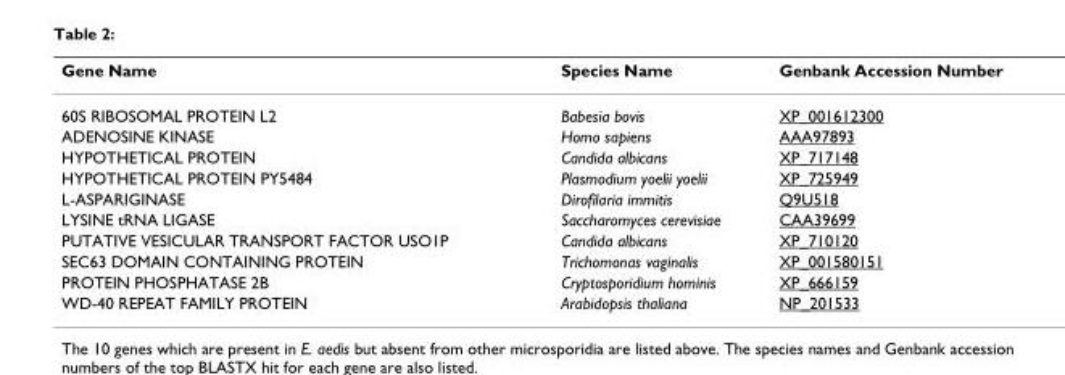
<table><thead><tr><td>Gene Name</td><td>Species Name</td><td>Genbank Accession Number</td></tr></thead><tbody><tr><td>60S RIBOSOMAL PROTEIN L2</td><td>Babesia bovis</td><td>XP_001612300</td></tr><tr><td>ADENOSINE KINASE</td><td>Homo sapiens</td><td>AAA97893</td></tr><tr><td>HYPOTHETICAL PROTEIN</td><td>Candida albicans</td><td>XP_717148</td></tr><tr><td>HYPOTHETICAL PROTEIN PY5484</td><td>Plasmodium yoelii yoelii</td><td>XP_725949</td></tr><tr><td>L-ASPARIGINASE</td><td>Dirofilaria immitis</td><td>Q9U518</td></tr><tr><td>LYSINE tRNA LIGASE</td><td>Saccharomyces cerevisiae</td><td>CAA39699</td></tr><tr><td>PUTATIVE VESICULAR TRANSPORT FACTOR USO1P</td><td>Candida albicans</td><td>XP_710120</td></tr><tr><td>SEC63 DOMAIN CONTAINING PROTEIN</td><td>Trichomonas vaginalis</td><td>XP_001580151</td></tr><tr><td>PROTEIN PHOSPHATASE 2B</td><td>Cryptosporidium hominis</td><td>XP_666159</td></tr><tr><td>WD-40 REPEAT FAMILY PROTEIN</td><td>Arabidopsis thaliana</td><td>NP_201533</td></tr></tbody></table>